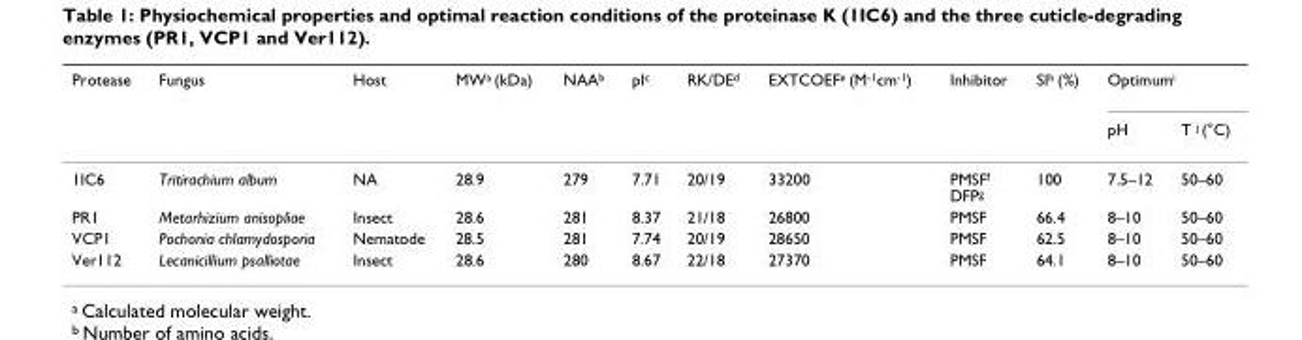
<table><thead><tr><td rowspan="2">Protease</td><td rowspan="2">Fungus</td><td rowspan="2">Host</td><td rowspan="2">MWa (kDa)</td><td rowspan="2">NAAb</td><td rowspan="2">pIc</td><td rowspan="2">RK/DEd</td><td rowspan="2">EXTCOEFe (M-1cm-1)</td><td rowspan="2">Inhibitor</td><td rowspan="2">SIh (%)</td><td colspan="2">Optimumi</td></tr><tr><td>pH</td><td>T j (°C)</td></tr></thead><tbody><tr><td>1IC6</td><td>Tritirachium album</td><td>NA</td><td>28.9</td><td>279</td><td>7.71</td><td>20/19</td><td>33200</td><td>PMSFf DFPg</td><td>100</td><td>7.5–12</td><td>50–60</td></tr><tr><td>PR1</td><td>Metarhizium anisopliae</td><td>Insect</td><td>28.6</td><td>281</td><td>8.37</td><td>21/18</td><td>26800</td><td>PMSF</td><td>66.4</td><td>8–10</td><td>50–60</td></tr><tr><td>VCP1</td><td>Pochonia chlamydosporia</td><td>Nematode</td><td>28.5</td><td>281</td><td>7.74</td><td>20/19</td><td>28650</td><td>PMSF</td><td>62.5</td><td>8–10</td><td>50–60</td></tr><tr><td>Ver112</td><td>Lecanicillium psalliotae</td><td>Insect</td><td>28.6</td><td>280</td><td>8.67</td><td>22/18</td><td>27370</td><td>PMSF</td><td>64.1</td><td>8–10</td><td>50–60</td></tr></tbody></table>